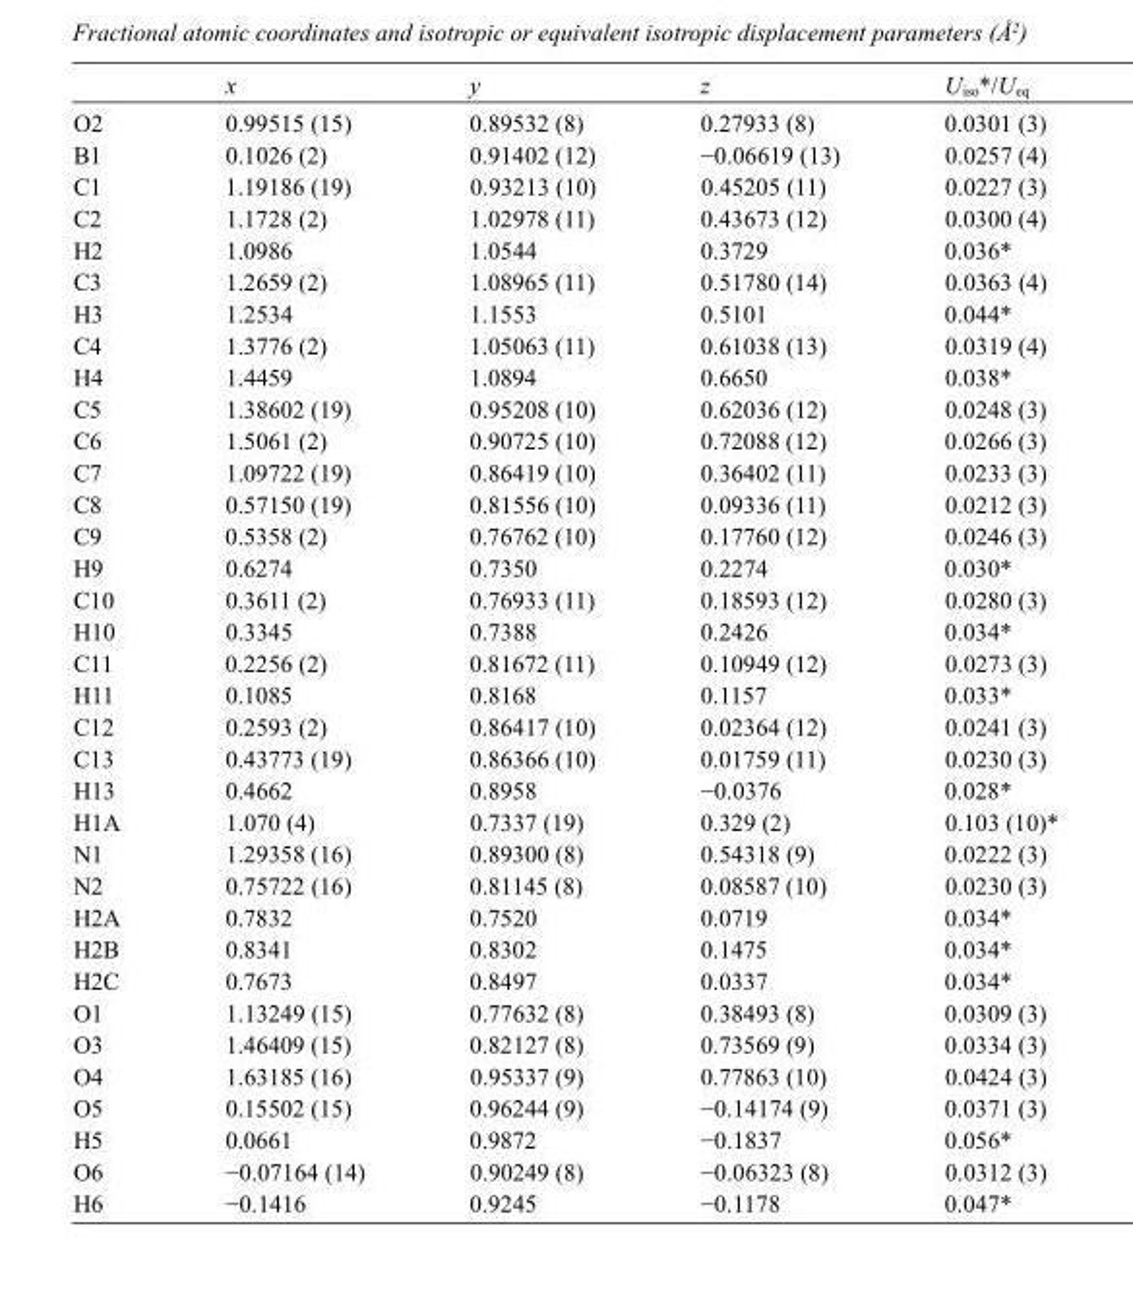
<table><thead><tr><td></td><td>x</td><td>y</td><td>z</td><td>U<sub>iso</sub>*/U<sub>eq</sub></td></tr></thead><tbody><tr><td>O2</td><td>0.99515 (15)</td><td>0.89532 (8)</td><td>0.27933 (8)</td><td>0.0301 (3)</td></tr><tr><td>B1</td><td>0.1026 (2)</td><td>0.91402 (12)</td><td>−0.06619 (13)</td><td>0.0257 (4)</td></tr><tr><td>C1</td><td>1.19186 (19)</td><td>0.93213 (10)</td><td>0.45205 (11)</td><td>0.0227 (3)</td></tr><tr><td>C2</td><td>1.1728 (2)</td><td>1.02978 (11)</td><td>0.43673 (12)</td><td>0.0300 (4)</td></tr><tr><td>H2</td><td>1.0986</td><td>1.0544</td><td>0.3729</td><td>0.036*</td></tr><tr><td>C3</td><td>1.2659 (2)</td><td>1.08965 (11)</td><td>0.51780 (14)</td><td>0.0363 (4)</td></tr><tr><td>H3</td><td>1.2534</td><td>1.1553</td><td>0.5101</td><td>0.044*</td></tr><tr><td>C4</td><td>1.3776 (2)</td><td>1.05063 (11)</td><td>0.61038 (13)</td><td>0.0319 (4)</td></tr><tr><td>H4</td><td>1.4459</td><td>1.0894</td><td>0.6650</td><td>0.038*</td></tr><tr><td>C5</td><td>1.38602 (19)</td><td>0.95208 (10)</td><td>0.62036 (12)</td><td>0.0248 (3)</td></tr><tr><td>C6</td><td>1.5061 (2)</td><td>0.90725 (10)</td><td>0.72088 (12)</td><td>0.0266 (3)</td></tr><tr><td>C7</td><td>1.09722 (19)</td><td>0.86419 (10)</td><td>0.36402 (11)</td><td>0.0233 (3)</td></tr><tr><td>C8</td><td>0.57150 (19)</td><td>0.81556 (10)</td><td>0.09336 (11)</td><td>0.0212 (3)</td></tr><tr><td>C9</td><td>0.5358 (2)</td><td>0.76762 (10)</td><td>0.17760 (12)</td><td>0.0246 (3)</td></tr><tr><td>H9</td><td>0.6274</td><td>0.7350</td><td>0.2274</td><td>0.030*</td></tr><tr><td>C10</td><td>0.3611 (2)</td><td>0.76933 (11)</td><td>0.18593 (12)</td><td>0.0280 (3)</td></tr><tr><td>H10</td><td>0.3345</td><td>0.7388</td><td>0.2426</td><td>0.034*</td></tr><tr><td>C11</td><td>0.2256 (2)</td><td>0.81672 (11)</td><td>0.10949 (12)</td><td>0.0273 (3)</td></tr><tr><td>H11</td><td>0.1085</td><td>0.8168</td><td>0.1157</td><td>0.033*</td></tr><tr><td>C12</td><td>0.2593 (2)</td><td>0.86417 (10)</td><td>0.02364 (12)</td><td>0.0241 (3)</td></tr><tr><td>C13</td><td>0.43773 (19)</td><td>0.86366 (10)</td><td>0.01759 (11)</td><td>0.0230 (3)</td></tr><tr><td>H13</td><td>0.4662</td><td>0.8958</td><td>−0.0376</td><td>0.028*</td></tr><tr><td>H1A</td><td>1.070 (4)</td><td>0.7337 (19)</td><td>0.329 (2)</td><td>0.103 (10)*</td></tr><tr><td>N1</td><td>1.29358 (16)</td><td>0.89300 (8)</td><td>0.54318 (9)</td><td>0.0222 (3)</td></tr><tr><td>N2</td><td>0.75722 (16)</td><td>0.81145 (8)</td><td>0.08587 (10)</td><td>0.0230 (3)</td></tr><tr><td>H2A</td><td>0.7832</td><td>0.7520</td><td>0.0719</td><td>0.034*</td></tr><tr><td>H2B</td><td>0.8341</td><td>0.8302</td><td>0.1475</td><td>0.034*</td></tr><tr><td>H2C</td><td>0.7673</td><td>0.8497</td><td>0.0337</td><td>0.034*</td></tr><tr><td>O1</td><td>1.13249 (15)</td><td>0.77632 (8)</td><td>0.38493 (8)</td><td>0.0309 (3)</td></tr><tr><td>O3</td><td>1.46409 (15)</td><td>0.82127 (8)</td><td>0.73569 (9)</td><td>0.0334 (3)</td></tr><tr><td>O4</td><td>1.63185 (16)</td><td>0.95337 (9)</td><td>0.77863 (10)</td><td>0.0424 (3)</td></tr><tr><td>O5</td><td>0.15502 (15)</td><td>0.96244 (9)</td><td>−0.14174 (9)</td><td>0.0371 (3)</td></tr><tr><td>H5</td><td>0.0661</td><td>0.9872</td><td>−0.1837</td><td>0.056*</td></tr><tr><td>O6</td><td>−0.07164 (14)</td><td>0.90249 (8)</td><td>−0.06323 (8)</td><td>0.0312 (3)</td></tr><tr><td>H6</td><td>−0.1416</td><td>0.9245</td><td>−0.1178</td><td>0.047*</td></tr></tbody></table>